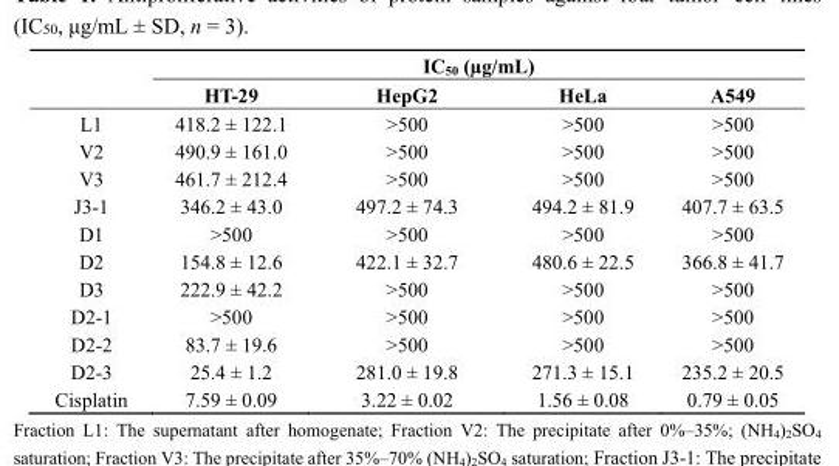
<table><thead><tr><td rowspan="2"></td><td colspan="4">IC<sub>50</sub> (µg/mL)</td></tr><tr><td>HT-29</td><td>HepG2</td><td>HeLa</td><td>A549</td></tr></thead><tbody><tr><td>L1</td><td>418.2 ± 122.1</td><td>&gt;500</td><td>&gt;500</td><td>&gt;500</td></tr><tr><td>V2</td><td>490.9 ± 161.0</td><td>&gt;500</td><td>&gt;500</td><td>&gt;500</td></tr><tr><td>V3</td><td>461.7 ± 212.4</td><td>&gt;500</td><td>&gt;500</td><td>&gt;500</td></tr><tr><td>J3-1</td><td>346.2 ± 43.0</td><td>497.2 ± 74.3</td><td>494.2 ± 81.9</td><td>407.7 ± 63.5</td></tr><tr><td>D1</td><td>&gt;500</td><td>&gt;500</td><td>&gt;500</td><td>&gt;500</td></tr><tr><td>D2</td><td>154.8 ± 12.6</td><td>422.1 ± 32.7</td><td>480.6 ± 22.5</td><td>366.8 ± 41.7</td></tr><tr><td>D3</td><td>222.9 ± 42.2</td><td>&gt;500</td><td>&gt;500</td><td>&gt;500</td></tr><tr><td>D2-1</td><td>&gt;500</td><td>&gt;500</td><td>&gt;500</td><td>&gt;500</td></tr><tr><td>D2-2</td><td>83.7 ± 19.6</td><td>&gt;500</td><td>&gt;500</td><td>&gt;500</td></tr><tr><td>D2-3</td><td>25.4 ± 1.2</td><td>281.0 ± 19.8</td><td>271.3 ± 15.1</td><td>235.2 ± 20.5</td></tr><tr><td>Cisplatin</td><td>7.59 ± 0.09</td><td>3.22 ± 0.02</td><td>1.56 ± 0.08</td><td>0.79 ± 0.05</td></tr></tbody></table>